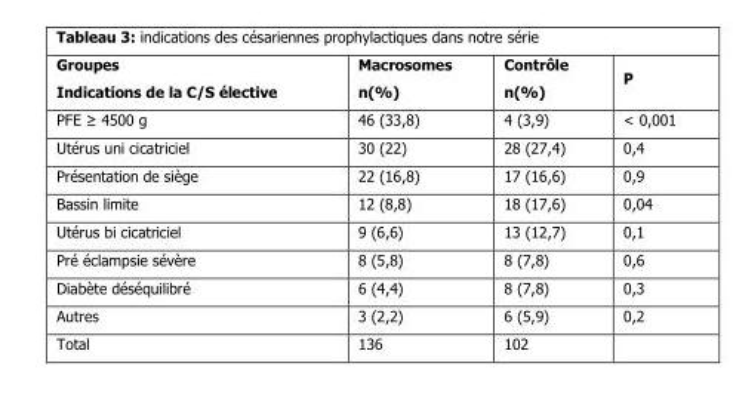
<table><thead><tr><td>Groupes Indications de la C/S élective</td><td>Macrosomes n(%)</td><td>Contrôle n(%)</td><td>P</td></tr></thead><tbody><tr><td>PFE ≥ 4500 g</td><td>46 (33,8)</td><td>4 (3,9)</td><td>&lt; 0,001</td></tr><tr><td>Utérus uni cicatriciel</td><td>30 (22)</td><td>28 (27,4)</td><td>0,4</td></tr><tr><td>Présentation de siège</td><td>22 (16,8)</td><td>17 (16,6)</td><td>0,9</td></tr><tr><td>Bassin limite</td><td>12 (8,8)</td><td>18 (17,6)</td><td>0,04</td></tr><tr><td>Utérus bi cicatriciel</td><td>9 (6,6)</td><td>13 (12,7)</td><td>0,1</td></tr><tr><td>Pré éclampsie sévère</td><td>8 (5,8)</td><td>8 (7,8)</td><td>0,6</td></tr><tr><td>Diabète déséquilibré</td><td>6 (4,4)</td><td>8 (7,8)</td><td>0,3</td></tr><tr><td>Autres</td><td>3 (2,2)</td><td>6 (5,9)</td><td>0,2</td></tr><tr><td>Total</td><td>136</td><td>102</td><td></td></tr></tbody></table>